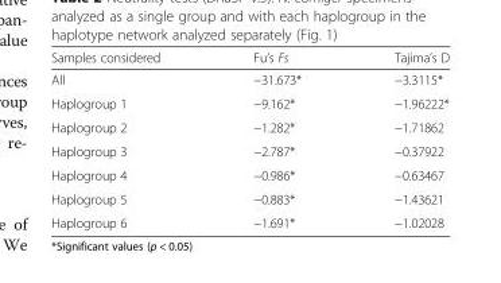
<table><thead><tr><td>Samples considered</td><td>Fu’s Fs</td><td>Tajima’s D</td></tr></thead><tbody><tr><td>All</td><td>−31.673*</td><td>−3.3115*</td></tr><tr><td>Haplogroup 1</td><td>−9.162*</td><td>−1.96222*</td></tr><tr><td>Haplogroup 2</td><td>−1.282*</td><td>−1.71862</td></tr><tr><td>Haplogroup 3</td><td>−2.787*</td><td>−0.37922</td></tr><tr><td>Haplogroup 4</td><td>−0.986*</td><td>−0.63467</td></tr><tr><td>Haplogroup 5</td><td>−0.883*</td><td>−1.43621</td></tr><tr><td>Haplogroup 6</td><td>−1.691*</td><td>−1.02028</td></tr></tbody></table>